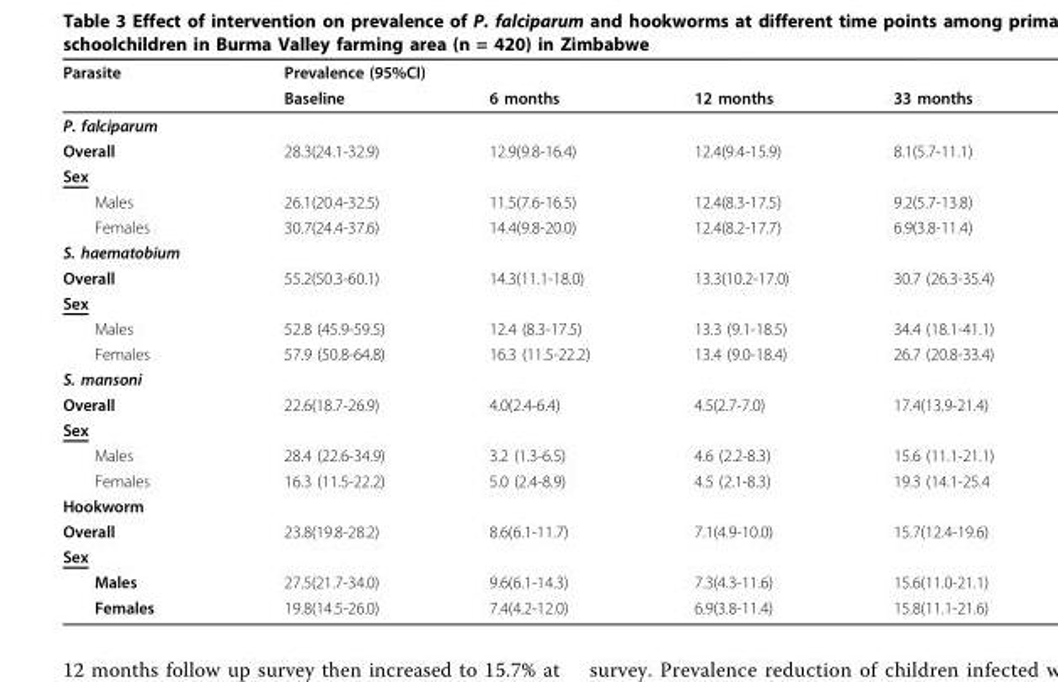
<table><thead><tr><td rowspan="2">Parasite</td><td colspan="4">Prevalence (95%CI)</td></tr><tr><td>Baseline</td><td>6 months</td><td>12 months</td><td>33 months</td></tr></thead><tbody><tr><td colspan="5">P. falciparum</td></tr><tr><td>Overall</td><td>28.3(24.1-32.9)</td><td>12.9(9.8-16.4)</td><td>12.4(9.4-15.9)</td><td>8.1(5.7-11.1)</td></tr><tr><td colspan="5">Sex</td></tr><tr><td>Males</td><td>26.1(20.4-32.5)</td><td>11.5(7.6-16.5)</td><td>12.4(8.3-17.5)</td><td>9.2(5.7-13.8)</td></tr><tr><td>Females</td><td>30.7(24.4-37.6)</td><td>14.4(9.8-20.0)</td><td>12.4(8.2-17.7)</td><td>6.9(3.8-11.4)</td></tr><tr><td colspan="5">S. haematobium</td></tr><tr><td>Overall</td><td>55.2(50.3-60.1)</td><td>14.3(11.1-18.0)</td><td>13.3(10.2-17.0)</td><td>30.7 (26.3-35.4)</td></tr><tr><td colspan="5">Sex</td></tr><tr><td>Males</td><td>52.8 (45.9-59.5)</td><td>12.4 (8.3-17.5)</td><td>13.3 (9.1-18.5)</td><td>34.4 (18.1-41.1)</td></tr><tr><td>Females</td><td>57.9 (50.8-64.8)</td><td>16.3 (11.5-22.2)</td><td>13.4 (9.0-18.4)</td><td>26.7 (20.8-33.4)</td></tr><tr><td colspan="5">S. mansoni</td></tr><tr><td>Overall</td><td>22.6(18.7-26.9)</td><td>4.0(2.4-6.4)</td><td>4.5(2.7-7.0)</td><td>17.4(13.9-21.4)</td></tr><tr><td colspan="5">Sex</td></tr><tr><td>Males</td><td>28.4 (22.6-34.9)</td><td>3.2 (1.3-6.5)</td><td>4.6 (2.2-8.3)</td><td>15.6 (11.1-21.1)</td></tr><tr><td>Females</td><td>16.3 (11.5-22.2)</td><td>5.0 (2.4-8.9)</td><td>4.5 (2.1-8.3)</td><td>19.3 (14.1-25.4</td></tr><tr><td colspan="5">Hookworm</td></tr><tr><td>Overall</td><td>23.8(19.8-28.2)</td><td>8.6(6.1-11.7)</td><td>7.1(4.9-10.0)</td><td>15.7(12.4-19.6)</td></tr><tr><td colspan="5">Sex</td></tr><tr><td>Males</td><td>27.5(21.7-34.0)</td><td>9.6(6.1-14.3)</td><td>7.3(4.3-11.6)</td><td>15.6(11.0-21.1)</td></tr><tr><td>Females</td><td>19.8(14.5-26.0)</td><td>7.4(4.2-12.0)</td><td>6.9(3.8-11.4)</td><td>15.8(11.1-21.6)</td></tr></tbody></table>